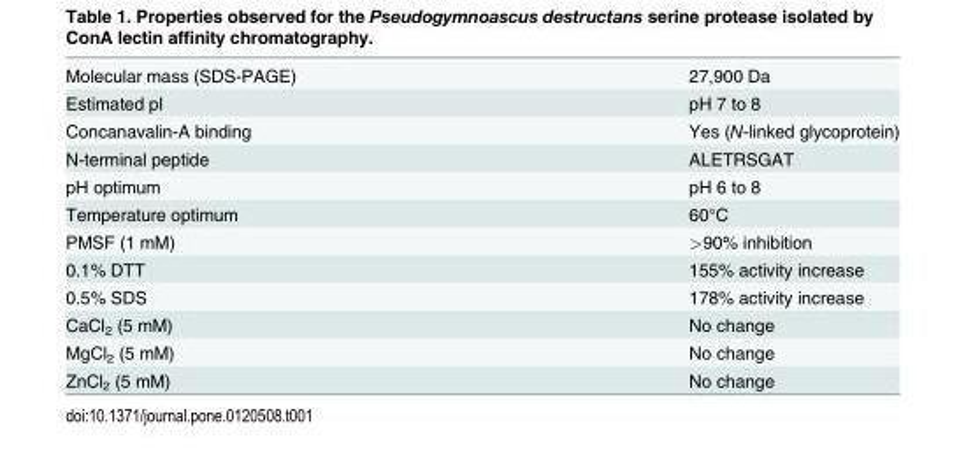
<table><tbody><tr><td>Molecular mass (SDS-PAGE)</td><td>27,900 Da</td></tr><tr><td>Estimated pI</td><td>pH 7 to 8</td></tr><tr><td>Concanavalin-A binding</td><td>Yes (N-linked glycoprotein)</td></tr><tr><td>N-terminal peptide</td><td>ALETRSGAT</td></tr><tr><td>pH optimum</td><td>pH 6 to 8</td></tr><tr><td>Temperature optimum</td><td>60°C</td></tr><tr><td>PMSF (1 mM)</td><td>&gt;90% inhibition</td></tr><tr><td>0.1% DTT</td><td>155% activity increase</td></tr><tr><td>0.5% SDS</td><td>178% activity increase</td></tr><tr><td>CaCl<sub>2</sub> (5 mM)</td><td>No change</td></tr><tr><td>MgCl<sub>2</sub> (5 mM)</td><td>No change</td></tr><tr><td>ZnCl<sub>2</sub> (5 mM)</td><td>No change</td></tr></tbody></table>